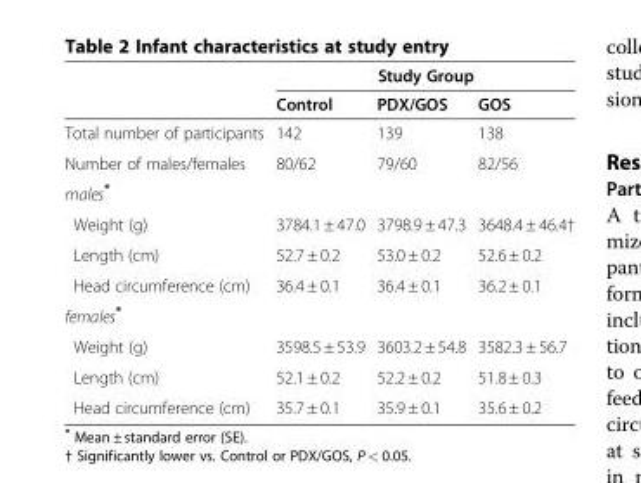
<table><thead><tr><td rowspan="2"></td><td colspan="3">Study Group</td></tr><tr><td>Control</td><td>PDX/GOS</td><td>GOS</td></tr></thead><tbody><tr><td>Total number of participants</td><td>142</td><td>139</td><td>138</td></tr><tr><td>Number of males/females</td><td>80/62</td><td>79/60</td><td>82/56</td></tr><tr><td colspan="4">males*</td></tr><tr><td>Weight (g)</td><td>3784.1 ± 47.0</td><td>3798.9 ± 47.3</td><td>3648.4 ± 46.4†</td></tr><tr><td>Length (cm)</td><td>52.7 ± 0.2</td><td>53.0 ± 0.2</td><td>52.6 ± 0.2</td></tr><tr><td>Head circumference (cm)</td><td>36.4 ± 0.1</td><td>36.4 ± 0.1</td><td>36.2 ± 0.1</td></tr><tr><td colspan="4">females*</td></tr><tr><td>Weight (g)</td><td>3598.5 ± 53.9</td><td>3603.2 ± 54.8</td><td>3582.3 ± 56.7</td></tr><tr><td>Length (cm)</td><td>52.1 ± 0.2</td><td>52.2 ± 0.2</td><td>51.8 ± 0.3</td></tr><tr><td>Head circumference (cm)</td><td>35.7 ± 0.1</td><td>35.9 ± 0.1</td><td>35.6 ± 0.2</td></tr></tbody></table>